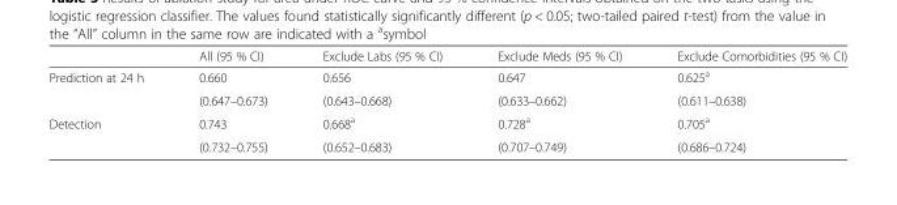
<table><thead><tr><td></td><td>All (95 % CI)</td><td>Exclude Labs (95 % CI)</td><td>Exclude Meds (95 % CI)</td><td>Exclude Comorbidities (95 % CI)</td></tr></thead><tbody><tr><td rowspan="2">Prediction at 24 h</td><td>0.660</td><td>0.656</td><td>0.647</td><td>0.625<sup>a</sup></td></tr><tr><td>(0.647–0.673)</td><td>(0.643–0.668)</td><td>(0.633–0.662)</td><td>(0.611–0.638)</td></tr><tr><td rowspan="2">Detection</td><td>0.743</td><td>0.668<sup>a</sup></td><td>0.728<sup>a</sup></td><td>0.705<sup>a</sup></td></tr><tr><td>(0.732–0.755)</td><td>(0.652–0.683)</td><td>(0.707–0.749)</td><td>(0.686–0.724)</td></tr></tbody></table>